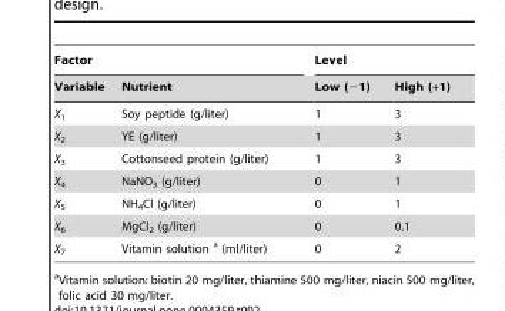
<table><thead><tr><td colspan="2">Factor</td><td colspan="2">Level</td></tr><tr><td>Variable</td><td>Nutrient</td><td>Low (−1)</td><td>High (+1)</td></tr></thead><tbody><tr><td>X<sub>1</sub></td><td>Soy peptide (g/liter)</td><td>1</td><td>3</td></tr><tr><td>X<sub>2</sub></td><td>YE (g/liter)</td><td>1</td><td>3</td></tr><tr><td>X<sub>3</sub></td><td>Cottonseed protein (g/liter)</td><td>1</td><td>3</td></tr><tr><td>X<sub>4</sub></td><td>NaNO<sub>3</sub> (g/liter)</td><td>0</td><td>1</td></tr><tr><td>X<sub>5</sub></td><td>NH<sub>4</sub>Cl (g/liter)</td><td>0</td><td>1</td></tr><tr><td>X<sub>6</sub></td><td>MgCl<sub>2</sub> (g/liter)</td><td>0</td><td>0.1</td></tr><tr><td>X<sub>7</sub></td><td>Vitamin solution a (ml/liter)</td><td>0</td><td>2</td></tr></tbody></table>